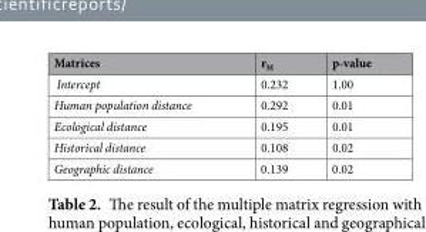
<table><thead><tr><td>Matrices</td><td>r<sub>M</sub></td><td>p-value</td></tr></thead><tbody><tr><td>Intercept</td><td>0.232</td><td>1.00</td></tr><tr><td>Human population distance</td><td>0.292</td><td>0.01</td></tr><tr><td>Ecological distance</td><td>0.195</td><td>0.01</td></tr><tr><td>Historical distance</td><td>0.108</td><td>0.02</td></tr><tr><td>Geographic distance</td><td>0.139</td><td>0.02</td></tr></tbody></table>